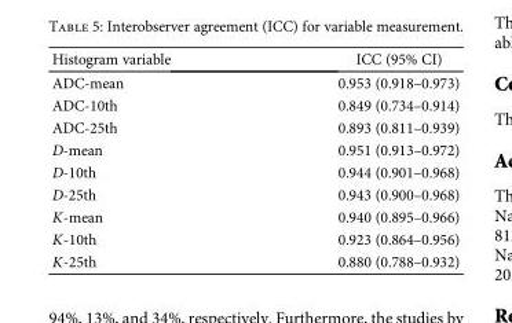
<table><thead><tr><td>Histogram variable</td><td>ICC (95% CI)</td></tr></thead><tbody><tr><td>ADC-mean</td><td>0.953 (0.918–0.973)</td></tr><tr><td>ADC-10th</td><td>0.849 (0.734–0.914)</td></tr><tr><td>ADC-25th</td><td>0.893 (0.811–0.939)</td></tr><tr><td>D-mean</td><td>0.951 (0.913–0.972)</td></tr><tr><td>D-10th</td><td>0.944 (0.901–0.968)</td></tr><tr><td>D-25th</td><td>0.943 (0.900–0.968)</td></tr><tr><td>K-mean</td><td>0.940 (0.895–0.966)</td></tr><tr><td>K-10th</td><td>0.923 (0.864–0.956)</td></tr><tr><td>K-25th</td><td>0.880 (0.788–0.932)</td></tr></tbody></table>